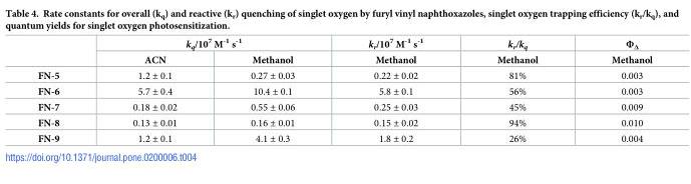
<table><thead><tr><td rowspan="2"></td><td colspan="2">k<sub>q</sub>/10<sup>7</sup> M<sup>-1</sup> s<sup>-1</sup></td><td rowspan="2">k<sub>r</sub>/10<sup>7</sup> M<sup>-1</sup> s<sup>-1</sup> Methanol</td><td rowspan="2">k<sub>r</sub>/k<sub>q</sub> Methanol</td><td rowspan="2">Ф<sub>Δ</sub> Methanol</td></tr><tr><td>ACN</td><td>Methanol</td></tr></thead><tbody><tr><td>FN-5</td><td>1.2 ± 0.1</td><td>0.27 ± 0.03</td><td>0.22 ± 0.02</td><td>81%</td><td>0.003</td></tr><tr><td>FN-6</td><td>5.7 ± 0.4</td><td>10.4 ± 0.1</td><td>5.8 ± 0.1</td><td>56%</td><td>0.003</td></tr><tr><td>FN-7</td><td>0.18 ± 0.02</td><td>0.55 ± 0.06</td><td>0.25 ± 0.03</td><td>45%</td><td>0.009</td></tr><tr><td>FN-8</td><td>0.13 ± 0.01</td><td>0.16 ± 0.01</td><td>0.15 ± 0.02</td><td>94%</td><td>0.010</td></tr><tr><td>FN-9</td><td>1.2 ± 0.1</td><td>4.1 ± 0.3</td><td>1.8 ± 0.2</td><td>26%</td><td>0.004</td></tr></tbody></table>